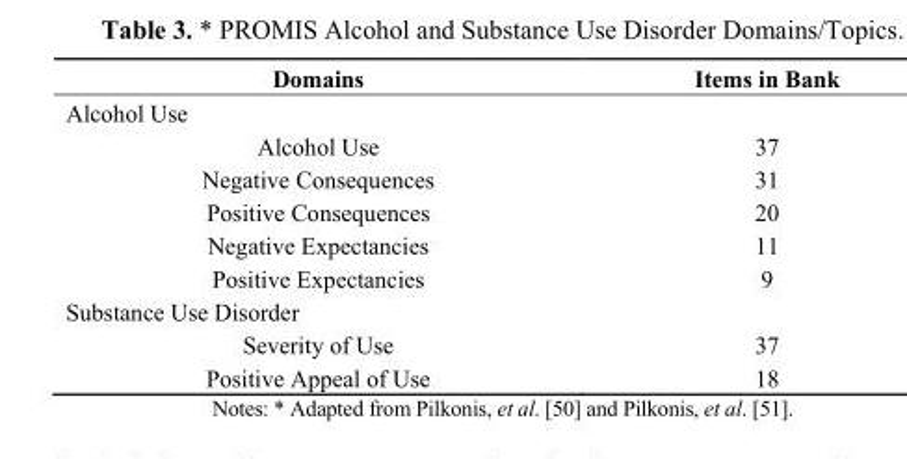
<table><thead><tr><td>Domains</td><td>Items in Bank</td></tr></thead><tbody><tr><td colspan="2">Alcohol Use</td></tr><tr><td>Alcohol Use</td><td>37</td></tr><tr><td>Negative Consequences</td><td>31</td></tr><tr><td>Positive Consequences</td><td>20</td></tr><tr><td>Negative Expectancies</td><td>11</td></tr><tr><td>Positive Expectancies</td><td>9</td></tr><tr><td colspan="2">Substance Use Disorder</td></tr><tr><td>Severity of Use</td><td>37</td></tr><tr><td>Positive Appeal of Use</td><td>18</td></tr></tbody></table>